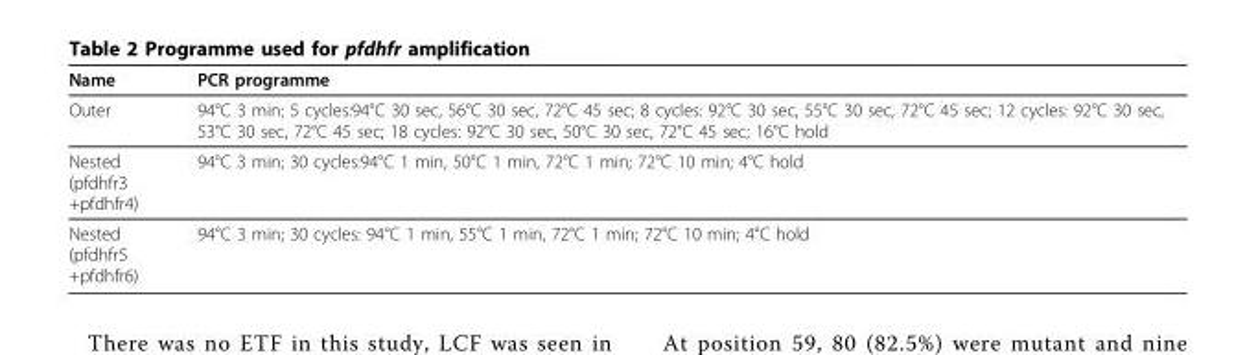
<table><thead><tr><td>Name</td><td>PCR programme</td></tr></thead><tbody><tr><td>Outer</td><td>94°C 3 min; 5 cycles:94°C 30 sec, 56°C 30 sec, 72°C 45 sec; 8 cycles: 92°C 30 sec, 55°C 30 sec, 72°C 45 sec; 12 cycles: 92°C 30 sec, 53°C 30 sec, 72°C 45 sec; 18 cycles: 92°C 30 sec, 50°C 30 sec, 72°C 45 sec; 16°C hold</td></tr><tr><td>Nested (pfdhfr3 +pfdhfr4)</td><td>94°C 3 min; 30 cycles:94°C 1 min, 50°C 1 min, 72°C 1 min; 72°C 10 min; 4°C hold</td></tr><tr><td>Nested (pfdhfr5 +pfdhfr6)</td><td>94°C 3 min; 30 cycles: 94°C 1 min, 55°C 1 min, 72°C 1 min; 72°C 10 min; 4°C hold</td></tr></tbody></table>